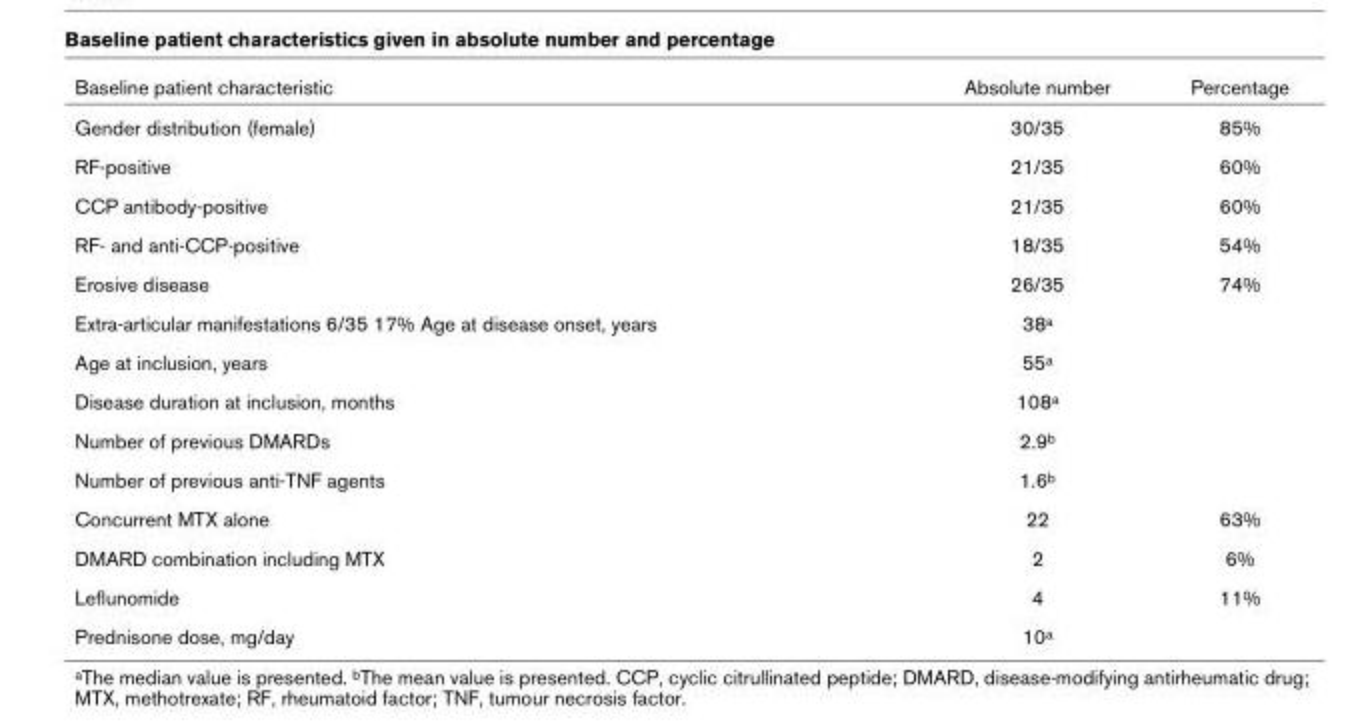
<table><thead><tr><td>Baseline patient characteristic</td><td>Absolute number</td><td>Percentage</td></tr></thead><tbody><tr><td>Gender distribution (female)</td><td>30/35</td><td>85%</td></tr><tr><td>RF-positive</td><td>21/35</td><td>60%</td></tr><tr><td>CCP antibody-positive</td><td>21/35</td><td>60%</td></tr><tr><td>RF- and anti-CCP-positive</td><td>18/35</td><td>54%</td></tr><tr><td>Erosive disease</td><td>26/35</td><td>74%</td></tr><tr><td>Extra-articular manifestations 6/35 17% Age at disease onset, years</td><td>38<sup>a</sup></td><td></td></tr><tr><td>Age at inclusion, years</td><td>55<sup>a</sup></td><td></td></tr><tr><td>Disease duration at inclusion, months</td><td>108<sup>a</sup></td><td></td></tr><tr><td>Number of previous DMARDs</td><td>2.9<sup>b</sup></td><td></td></tr><tr><td>Number of previous anti-TNF agents</td><td>1.6<sup>b</sup></td><td></td></tr><tr><td>Concurrent MTX alone</td><td>22</td><td>63%</td></tr><tr><td>DMARD combination including MTX</td><td>2</td><td>6%</td></tr><tr><td>Leflunomide</td><td>4</td><td>11%</td></tr><tr><td>Prednisone dose, mg/day</td><td>10<sup>a</sup></td><td></td></tr></tbody></table>